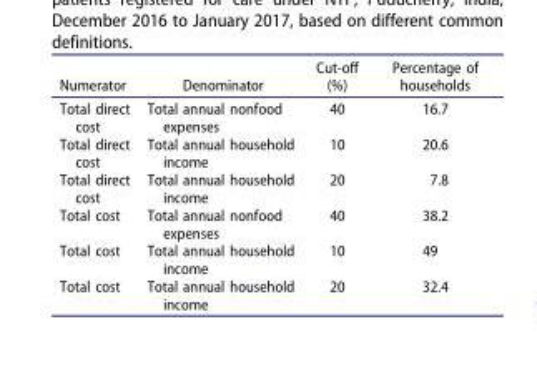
<table><thead><tr><td>Numerator</td><td>Denominator</td><td>Cut-off (%)</td><td>Percentage of households</td></tr></thead><tbody><tr><td>Total direct cost</td><td>Total annual nonfood expenses</td><td>40</td><td>16.7</td></tr><tr><td>Total direct cost</td><td>Total annual household income</td><td>10</td><td>20.6</td></tr><tr><td>Total direct cost</td><td>Total annual household income</td><td>20</td><td>7.8</td></tr><tr><td>Total cost</td><td>Total annual nonfood expenses</td><td>40</td><td>38.2</td></tr><tr><td>Total cost</td><td>Total annual household income</td><td>10</td><td>49</td></tr><tr><td>Total cost</td><td>Total annual household income</td><td>20</td><td>32.4</td></tr></tbody></table>